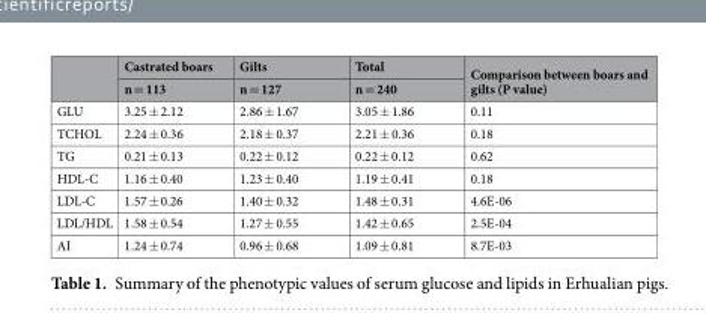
<table><thead><tr><td rowspan="2"></td><td rowspan="2">Castrated boars n = 113</td><td rowspan="2">Gilts n = 127</td><td rowspan="2">Total n = 240</td><td rowspan="2">Comparison between boars and gilts (P value)</td></tr><tr></tr></thead><tbody><tr><td>GLU</td><td>3.25 ± 2.12</td><td>2.86 ± 1.67</td><td>3.05 ± 1.86</td><td>0.11</td></tr><tr><td>TCHOL</td><td>2.24 ± 0.36</td><td>2.18 ± 0.37</td><td>2.21 ± 0.36</td><td>0.18</td></tr><tr><td>TG</td><td>0.21 ± 0.13</td><td>0.22 ± 0.12</td><td>0.22 ± 0.12</td><td>0.62</td></tr><tr><td>HDL-C</td><td>1.16 ± 0.40</td><td>1.23 ± 0.40</td><td>1.19 ± 0.41</td><td>0.18</td></tr><tr><td>LDL-C</td><td>1.57 ± 0.26</td><td>1.40 ± 0.32</td><td>1.48 ± 0.31</td><td>4.6E-06</td></tr><tr><td>LDL/HDL</td><td>1.58 ± 0.54</td><td>1.27 ± 0.55</td><td>1.42 ± 0.65</td><td>2.5E-04</td></tr><tr><td>AI</td><td>1.24 ± 0.74</td><td>0.96 ± 0.68</td><td>1.09 ± 0.81</td><td>8.7E-03</td></tr></tbody></table>